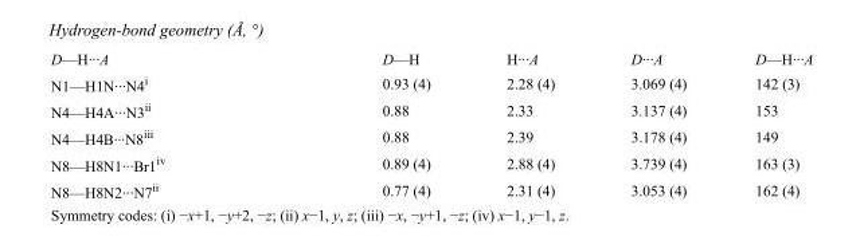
<table><tbody><tr><td>D—H···A</td><td>D—H</td><td>H···A</td><td>D···A</td><td>D—H···A</td></tr><tr><td>N1—H1N···N4<sup>i</sup></td><td>0.93 (4)</td><td>2.28 (4)</td><td>3.069 (4)</td><td>142 (3)</td></tr><tr><td>N4—H4A···N3<sup>ii</sup></td><td>0.88</td><td>2.33</td><td>3.137 (4)</td><td>153</td></tr><tr><td>N4—H4B···N8<sup>iii</sup></td><td>0.88</td><td>2.39</td><td>3.178 (4)</td><td>149</td></tr><tr><td>N8—H8N1···Br1<sup>iv</sup></td><td>0.89 (4)</td><td>2.88 (4)</td><td>3.739 (4)</td><td>163 (3)</td></tr><tr><td>N8—H8N2···N7<sup>ii</sup></td><td>0.77 (4)</td><td>2.31 (4)</td><td>3.053 (4)</td><td>162 (4)</td></tr></tbody></table>